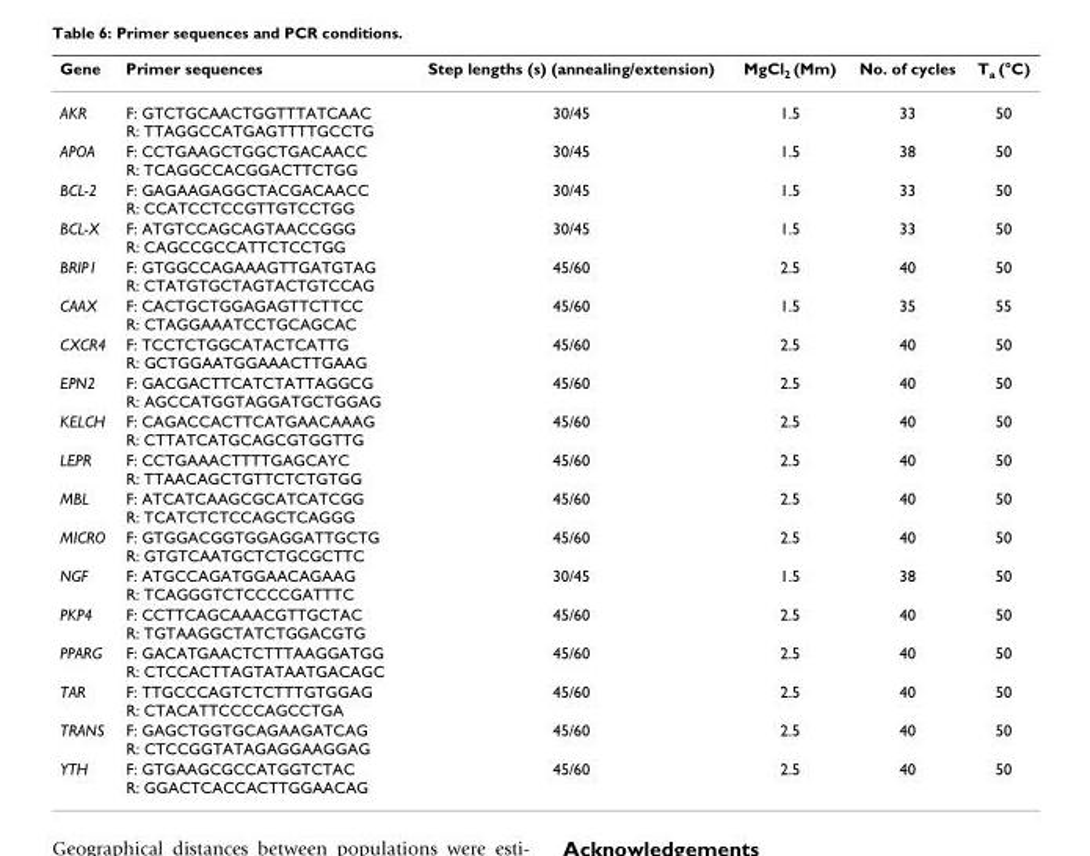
<table><thead><tr><td>Gene</td><td>Primer sequences</td><td>Step lengths (s) (annealing/extension)</td><td>MgCl<sub>2</sub> (Mm)</td><td>No. of cycles</td><td>T<sub>a</sub> (°C)</td></tr></thead><tbody><tr><td>AKR</td><td>F: GTCTGCAACTGGTTTATCAAC R: TTAGGCCATGAGTTTTGCCTG</td><td>30/45</td><td>1.5</td><td>33</td><td>50</td></tr><tr><td>APOA</td><td>F: CCTGAAGCTGGCTGACAACC R: TCAGGCCACGGACTTCTGG</td><td>30/45</td><td>1.5</td><td>38</td><td>50</td></tr><tr><td>BCL-2</td><td>F: GAGAAGAGGCTACGACAACC R: CCATCCTCCGTTGTCCTGG</td><td>30/45</td><td>1.5</td><td>33</td><td>50</td></tr><tr><td>BCL-X</td><td>F: ATGTCCAGCAGTAACCGGG R: CAGCCGCCATTCTCCTGG</td><td>30/45</td><td>1.5</td><td>33</td><td>50</td></tr><tr><td>BRIP1</td><td>F: GTGGCCAGAAAGTTGATGTAG R: CTATGTGCTAGTACTGTCCAG</td><td>45/60</td><td>2.5</td><td>40</td><td>50</td></tr><tr><td>CAAX</td><td>F: CACTGCTGGAGAGTTCTTCC R: CTAGGAAATCCTGCAGCAC</td><td>45/60</td><td>1.5</td><td>35</td><td>55</td></tr><tr><td>CXCR4</td><td>F: TCCTCTGGCATACTCATTG R: GCTGGAATGGAAACTTGAAG</td><td>45/60</td><td>2.5</td><td>40</td><td>50</td></tr><tr><td>EPN2</td><td>F: GACGACTTCATCTATTAGGCG R: AGCCATGGTAGGATGCTGGAG</td><td>45/60</td><td>2.5</td><td>40</td><td>50</td></tr><tr><td>KELCH</td><td>F: CAGACCACTTCATGAACAAAG R: CTTATCATGCAGCGTGGTTG</td><td>45/60</td><td>2.5</td><td>40</td><td>50</td></tr><tr><td>LEPR</td><td>F: CCTGAAACTTTTGAGCAYC R: TTAACAGCTGTTCTCTGTGG</td><td>45/60</td><td>2.5</td><td>40</td><td>50</td></tr><tr><td>MBL</td><td>F: ATCATCAAGCGCATCATCGG R: TCATCTCTCCAGCTCAGGG</td><td>45/60</td><td>2.5</td><td>40</td><td>50</td></tr><tr><td>MICRO</td><td>F: GTGGACGGTGGAGGATTGCTG R: GTGTCAATGCTCTGCGCTTC</td><td>45/60</td><td>2.5</td><td>40</td><td>50</td></tr><tr><td>NGF</td><td>F: ATGCCAGATGGAACAGAAG R: TCAGGGTCTCCCCGATTTC</td><td>30/45</td><td>1.5</td><td>38</td><td>50</td></tr><tr><td>PKP4</td><td>F: CCTTCAGCAAACGTTGCTAC R: TGTAAGGCTATCTGGACGTG</td><td>45/60</td><td>2.5</td><td>40</td><td>50</td></tr><tr><td>PPARG</td><td>F: GACATGAACTCTTTAAGGATGG R: CTCCACTTAGTATAATGACAGC</td><td>45/60</td><td>2.5</td><td>40</td><td>50</td></tr><tr><td>TAR</td><td>F: TTGCCCAGTCTCTTTGTGGAG R: CTACATTCCCCAGCCTGA</td><td>45/60</td><td>2.5</td><td>40</td><td>50</td></tr><tr><td>TRANS</td><td>F: GAGCTGGTGCAGAAGATCAG R: CTCCGGTATAGAGGAAGGAG</td><td>45/60</td><td>2.5</td><td>40</td><td>50</td></tr><tr><td>YTH</td><td>F: GTGAAGCGCCATGGTCTAC R: GGACTCACCACTTGGAACAG</td><td>45/60</td><td>2.5</td><td>40</td><td>50</td></tr></tbody></table>